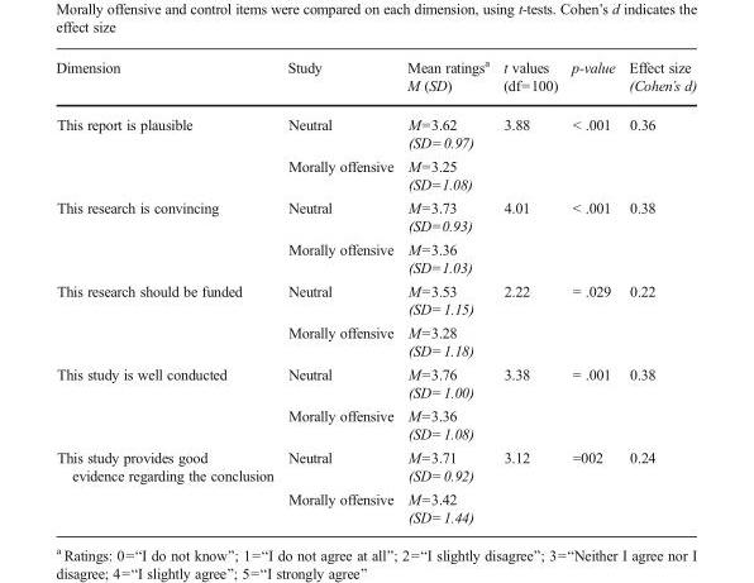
<table><thead><tr><td>Dimension</td><td>Study</td><td>Mean ratings<sup>a</sup> M (SD)</td><td>t values (df=100)</td><td>p-value</td><td>Effect size (Cohen’s d)</td></tr></thead><tbody><tr><td rowspan="2">This report is plausible</td><td>Neutral</td><td>M=3.62 (SD=0.97)</td><td rowspan="2">3.88</td><td rowspan="2">&lt; .001</td><td rowspan="2">0.36</td></tr><tr><td>Morally offensive</td><td>M=3.25 (SD=1.08)</td></tr><tr><td rowspan="2">This research is convincing</td><td>Neutral</td><td>M=3.73 (SD=0.93)</td><td rowspan="2">4.01</td><td rowspan="2">&lt; .001</td><td rowspan="2">0.38</td></tr><tr><td>Morally offensive</td><td>M=3.36 (SD=1.03)</td></tr><tr><td rowspan="2">This research should be funded</td><td>Neutral</td><td>M=3.53 (SD=1.15)</td><td rowspan="2">2.22</td><td rowspan="2">= .029</td><td rowspan="2">0.22</td></tr><tr><td>Morally offensive</td><td>M=3.28 (SD=1.18)</td></tr><tr><td rowspan="2">This study is well conducted</td><td>Neutral</td><td>M=3.76 (SD=1.00)</td><td rowspan="2">3.38</td><td rowspan="2">= .001</td><td rowspan="2">0.38</td></tr><tr><td>Morally offensive</td><td>M=3.36 (SD=1.08)</td></tr><tr><td rowspan="2">This study provides good evidence regarding the conclusion</td><td>Neutral</td><td>M=3.71 (SD=0.92)</td><td rowspan="2">3.12</td><td rowspan="2">=002</td><td rowspan="2">0.24</td></tr><tr><td>Morally offensive</td><td>M=3.42 (SD=1.44)</td></tr></tbody></table>